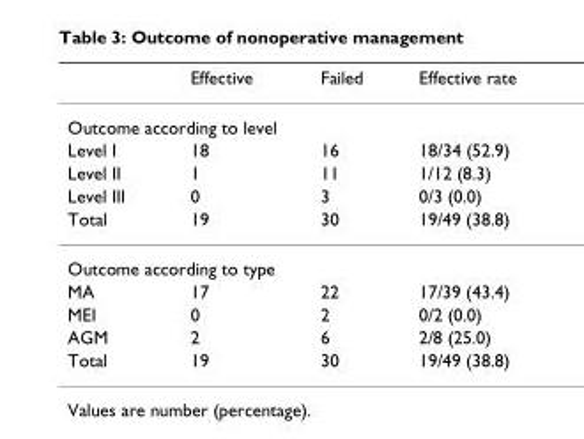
<table><thead><tr><td></td><td>Effective</td><td>Failed</td><td>Effective rate</td></tr></thead><tbody><tr><td colspan="4">Outcome according to level</td></tr><tr><td>Level I</td><td>18</td><td>16</td><td>18/34 (52.9)</td></tr><tr><td>Level II</td><td>1</td><td>11</td><td>1/12 (8.3)</td></tr><tr><td>Level III</td><td>0</td><td>3</td><td>0/3 (0.0)</td></tr><tr><td>Total</td><td>19</td><td>30</td><td>19/49 (38.8)</td></tr><tr><td colspan="4">Outcome according to type</td></tr><tr><td>MA</td><td>17</td><td>22</td><td>17/39 (43.4)</td></tr><tr><td>MEI</td><td>0</td><td>2</td><td>0/2 (0.0)</td></tr><tr><td>AGM</td><td>2</td><td>6</td><td>2/8 (25.0)</td></tr><tr><td>Total</td><td>19</td><td>30</td><td>19/49 (38.8)</td></tr></tbody></table>